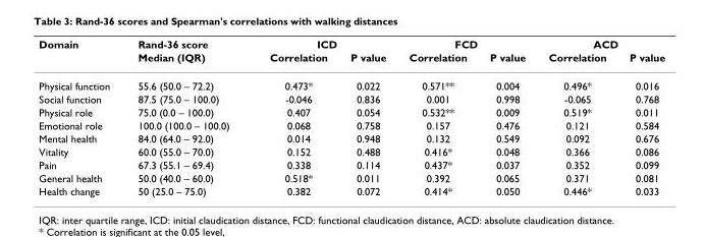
<table><thead><tr><td rowspan="2">Domain</td><td rowspan="2">Rand-36 score Median (IQR)</td><td colspan="2">ICD</td><td colspan="2">FCD</td><td colspan="2">ACD</td></tr><tr><td>Correlation</td><td>P value</td><td>Correlation</td><td>P value</td><td>Correlation</td><td>P value</td></tr></thead><tbody><tr><td>Physical function</td><td>55.6 (50.0 – 72.2)</td><td>0.473*</td><td>0.022</td><td>0.571**</td><td>0.004</td><td>0.496*</td><td>0.016</td></tr><tr><td>Social function</td><td>87.5 (75.0 – 100.0)</td><td>-0.046</td><td>0.836</td><td>0.001</td><td>0.998</td><td>-0.065</td><td>0.768</td></tr><tr><td>Physical role</td><td>75.0 (0.0 – 100.0)</td><td>0.407</td><td>0.054</td><td>0.532**</td><td>0.009</td><td>0.519*</td><td>0.011</td></tr><tr><td>Emotional role</td><td>100.0 (100.0 – 100.0)</td><td>0.068</td><td>0.758</td><td>0.157</td><td>0.476</td><td>0.121</td><td>0.584</td></tr><tr><td>Mental health</td><td>84.0 (64.0 – 92.0)</td><td>0.014</td><td>0.948</td><td>0.132</td><td>0.549</td><td>0.092</td><td>0.676</td></tr><tr><td>Vitality</td><td>60.0 (55.0 – 70.0)</td><td>0.152</td><td>0.488</td><td>0.416*</td><td>0.048</td><td>0.366</td><td>0.086</td></tr><tr><td>Pain</td><td>67.3 (55.1 – 69.4)</td><td>0.338</td><td>0.114</td><td>0.437*</td><td>0.037</td><td>0.352</td><td>0.099</td></tr><tr><td>General health</td><td>50.0 (40.0 – 60.0)</td><td>0.518*</td><td>0.011</td><td>0.392</td><td>0.065</td><td>0.371</td><td>0.081</td></tr><tr><td>Health change</td><td>50 (25.0 – 75.0)</td><td>0.382</td><td>0.072</td><td>0.414*</td><td>0.050</td><td>0.446*</td><td>0.033</td></tr></tbody></table>